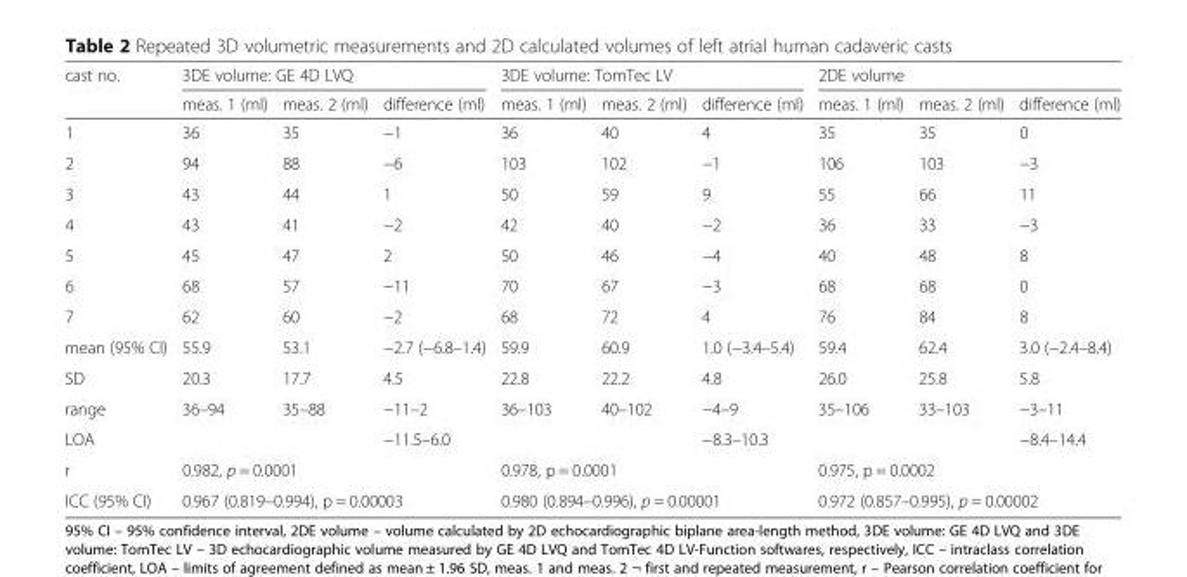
<table><thead><tr><td rowspan="2">cast no.</td><td colspan="3">3DE volume: GE 4D LVQ</td><td colspan="3">3DE volume: TomTec LV</td><td colspan="3">2DE volume</td></tr><tr><td>meas. 1 (ml)</td><td>meas. 2 (ml)</td><td>difference (ml)</td><td>meas. 1 (ml)</td><td>meas. 2 (ml)</td><td>difference (ml)</td><td>meas. 1 (ml)</td><td>meas. 2 (ml)</td><td>difference (ml)</td></tr></thead><tbody><tr><td>1</td><td>36</td><td>35</td><td>−1</td><td>36</td><td>40</td><td>4</td><td>35</td><td>35</td><td>0</td></tr><tr><td>2</td><td>94</td><td>88</td><td>−6</td><td>103</td><td>102</td><td>−1</td><td>106</td><td>103</td><td>−3</td></tr><tr><td>3</td><td>43</td><td>44</td><td>1</td><td>50</td><td>59</td><td>9</td><td>55</td><td>66</td><td>11</td></tr><tr><td>4</td><td>43</td><td>41</td><td>−2</td><td>42</td><td>40</td><td>−2</td><td>36</td><td>33</td><td>−3</td></tr><tr><td>5</td><td>45</td><td>47</td><td>2</td><td>50</td><td>46</td><td>−4</td><td>40</td><td>48</td><td>8</td></tr><tr><td>6</td><td>68</td><td>57</td><td>−11</td><td>70</td><td>67</td><td>−3</td><td>68</td><td>68</td><td>0</td></tr><tr><td>7</td><td>62</td><td>60</td><td>−2</td><td>68</td><td>72</td><td>4</td><td>76</td><td>84</td><td>8</td></tr><tr><td>mean (95% CI)</td><td>55.9</td><td>53.1</td><td>−2.7 (−6.8–1.4)</td><td>59.9</td><td>60.9</td><td>1.0 (−3.4–5.4)</td><td>59.4</td><td>62.4</td><td>3.0 (−2.4–8.4)</td></tr><tr><td>SD</td><td>20.3</td><td>17.7</td><td>4.5</td><td>22.8</td><td>22.2</td><td>4.8</td><td>26.0</td><td>25.8</td><td>5.8</td></tr><tr><td>range</td><td>36–94</td><td>35–88</td><td>−11–2</td><td>36–103</td><td>40–102</td><td>−4–9</td><td>35–106</td><td>33–103</td><td>−3–11</td></tr><tr><td>LOA</td><td></td><td></td><td>−11.5–6.0</td><td></td><td></td><td>−8.3–10.3</td><td></td><td></td><td>−8.4–14.4</td></tr><tr><td>r</td><td colspan="2">0.982, p = 0.0001</td><td></td><td colspan="2">0.978, p = 0.0001</td><td></td><td colspan="2">0.975, p = 0.0002</td><td></td></tr><tr><td>ICC (95% CI)</td><td colspan="3">0.967 (0.819–0.994), p = 0.00003</td><td colspan="3">0.980 (0.894–0.996), p = 0.00001</td><td colspan="3">0.972 (0.857–0.995), p = 0.00002</td></tr></tbody></table>